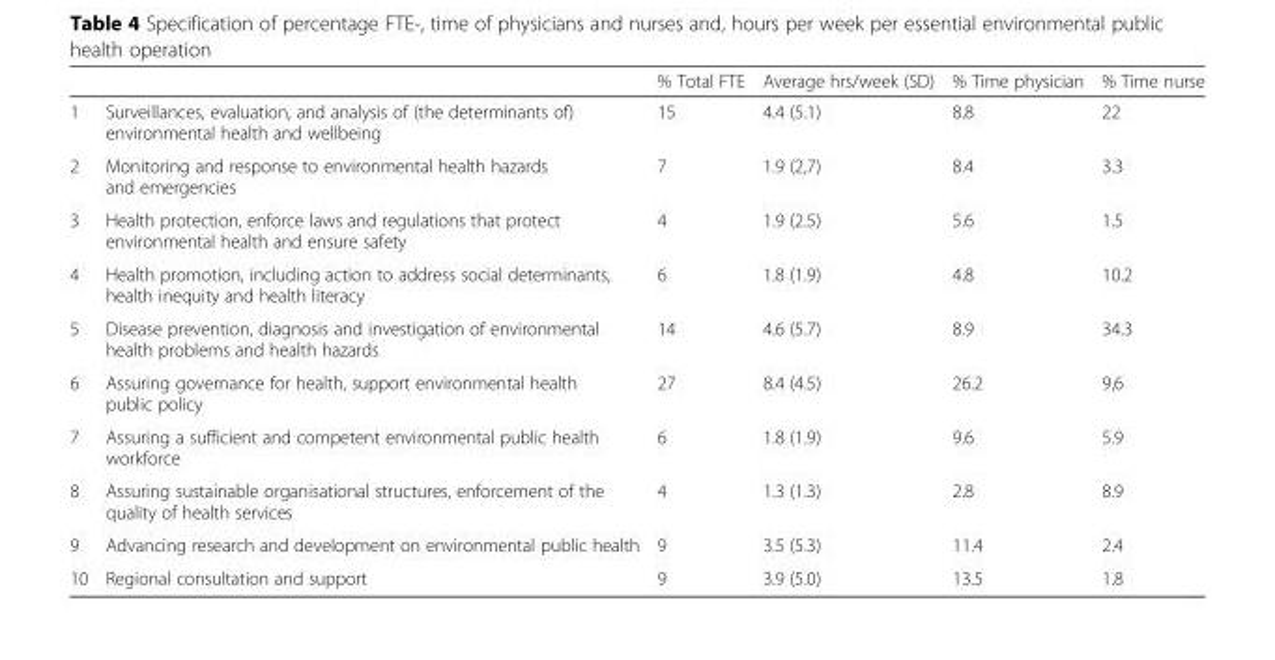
<table><thead><tr><td></td><td></td><td>% Total FTE</td><td>Average hrs/week (SD)</td><td>% Time physician</td><td>% Time nurse</td></tr></thead><tbody><tr><td>1</td><td>Surveillances, evaluation, and analysis of (the determinants of) environmental health and wellbeing</td><td>15</td><td>4.4 (5.1)</td><td>8.8</td><td>22</td></tr><tr><td>2</td><td>Monitoring and response to environmental health hazards and emergencies</td><td>7</td><td>1.9 (2,7)</td><td>8.4</td><td>3.3</td></tr><tr><td>3</td><td>Health protection, enforce laws and regulations that protect environmental health and ensure safety</td><td>4</td><td>1.9 (2.5)</td><td>5.6</td><td>1.5</td></tr><tr><td>4</td><td>Health promotion, including action to address social determinants, health inequity and health literacy</td><td>6</td><td>1.8 (1.9)</td><td>4.8</td><td>10.2</td></tr><tr><td>5</td><td>Disease prevention, diagnosis and investigation of environmental health problems and health hazards</td><td>14</td><td>4.6 (5.7)</td><td>8.9</td><td>34.3</td></tr><tr><td>6</td><td>Assuring governance for health, support environmental health public policy</td><td>27</td><td>8.4 (4.5)</td><td>26.2</td><td>9,6</td></tr><tr><td>7</td><td>Assuring a sufficient and competent environmental public health workforce</td><td>6</td><td>1.8 (1.9)</td><td>9.6</td><td>5.9</td></tr><tr><td>8</td><td>Assuring sustainable organisational structures, enforcement of the quality of health services</td><td>4</td><td>1.3 (1.3)</td><td>2.8</td><td>8.9</td></tr><tr><td>9</td><td>Advancing research and development on environmental public health</td><td>9</td><td>3.5 (5.3)</td><td>11.4</td><td>2.4</td></tr><tr><td>10</td><td>Regional consultation and support</td><td>9</td><td>3.9 (5.0)</td><td>13.5</td><td>1.8</td></tr></tbody></table>